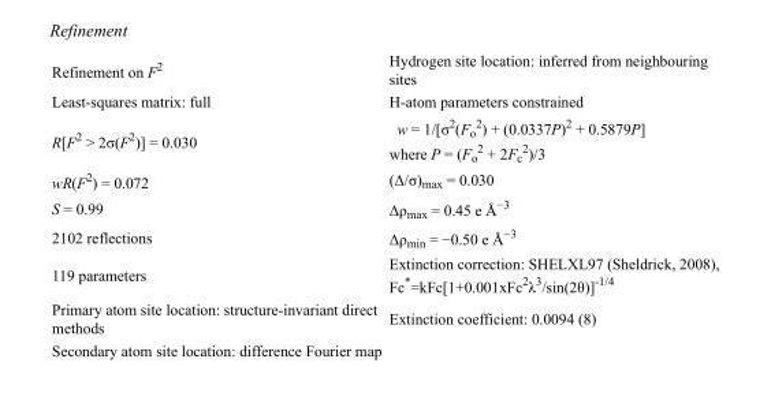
<table><tbody><tr><td>Refinement on F<sup>2</sup></td><td>Hydrogen site location: inferred from neighbouring sites</td></tr><tr><td>Least-squares matrix: full</td><td>H-atom parameters constrained</td></tr><tr><td>R[F<sup>2</sup> &gt; 2σ(F<sup>2</sup>)] = 0.030</td><td>w = 1/[σ<sup>2</sup>(F<sub>o</sub> <sup>2</sup>) + (0.0337P)<sup>2</sup> + 0.5879P] where P = (F<sub>o</sub> <sup>2</sup> + 2F<sub>c</sub> <sup>2</sup>)/3</td></tr><tr><td>wR(F<sup>2</sup>) = 0.072</td><td>(Δ/σ)<sub>max</sub> = 0.030</td></tr><tr><td>S = 0.99</td><td>Δρ<sub>max</sub> = 0.45 e Å<sup>−3</sup></td></tr><tr><td>2102 reflections</td><td>Δρ<sub>min</sub> = −0.50 e Å<sup>−3</sup></td></tr><tr><td>119 parameters</td><td>Extinction correction: SHELXL97 (Sheldrick, 2008), Fc*=kFc[1+0.001xFc<sup>2</sup>λ<sup>3</sup>/sin(2θ)]<sup>-1/4</sup></td></tr><tr><td>Primary atom site location: structure-invariant direct methods</td><td>Extinction coefficient: 0.0094 (8)</td></tr><tr><td>Secondary atom site location: difference Fourier map</td><td></td></tr></tbody></table>